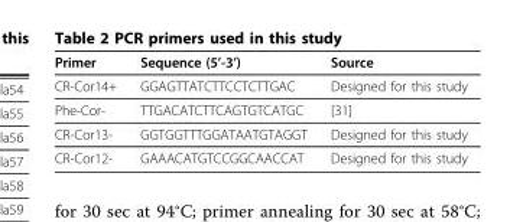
<table><thead><tr><td>Primer</td><td>Sequence (5’-3’)</td><td>Source</td></tr></thead><tbody><tr><td>CR-Cor14+</td><td>GGAGTTATCTTCCTCTTGAC</td><td>Designed for this study</td></tr><tr><td>Phe-Cor-</td><td>TTGACATCTTCAGTGTCATGC</td><td>[31]</td></tr><tr><td>CR-Cor13-</td><td>GGTGGTTTGGATAATGTAGGT</td><td>Designed for this study</td></tr><tr><td>CR-Cor12-</td><td>GAAACATGTCCGGCAACCAT</td><td>Designed for this study</td></tr></tbody></table>